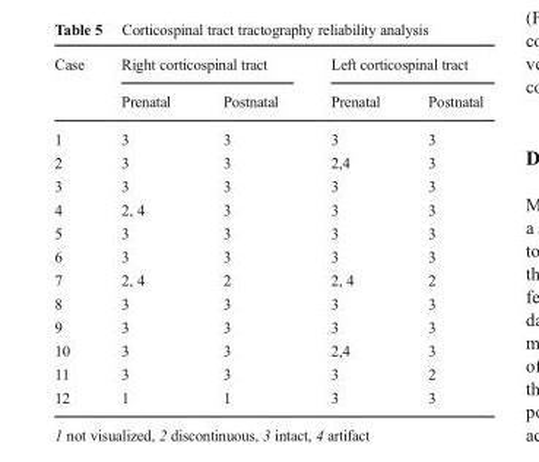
<table><thead><tr><td rowspan="2">Case</td><td colspan="2">Right corticospinal tract</td><td colspan="2">Left corticospinal tract</td></tr><tr><td>Prenatal</td><td>Postnatal</td><td>Prenatal</td><td>Postnatal</td></tr></thead><tbody><tr><td>1</td><td>3</td><td>3</td><td>3</td><td>3</td></tr><tr><td>2</td><td>3</td><td>3</td><td>2,4</td><td>3</td></tr><tr><td>3</td><td>3</td><td>3</td><td>3</td><td>3</td></tr><tr><td>4</td><td>2, 4</td><td>3</td><td>3</td><td>3</td></tr><tr><td>5</td><td>3</td><td>3</td><td>3</td><td>3</td></tr><tr><td>6</td><td>3</td><td>3</td><td>3</td><td>3</td></tr><tr><td>7</td><td>2, 4</td><td>2</td><td>2, 4</td><td>2</td></tr><tr><td>8</td><td>3</td><td>3</td><td>3</td><td>3</td></tr><tr><td>9</td><td>3</td><td>3</td><td>3</td><td>3</td></tr><tr><td>10</td><td>3</td><td>3</td><td>2,4</td><td>3</td></tr><tr><td>11</td><td>3</td><td>3</td><td>3</td><td>2</td></tr><tr><td>12</td><td>1</td><td>1</td><td>3</td><td>3</td></tr></tbody></table>